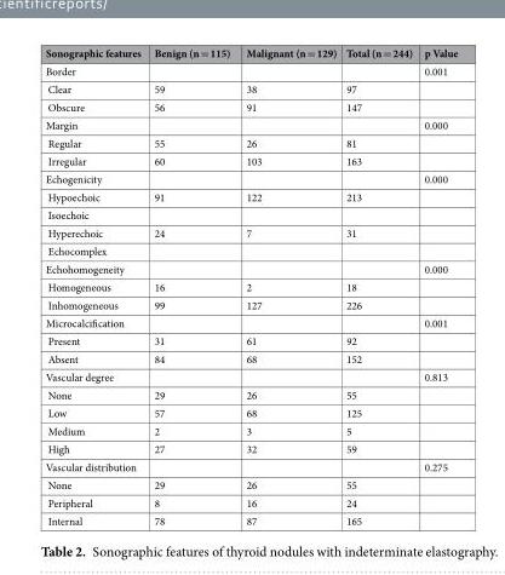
<table><thead><tr><td>Sonographic features</td><td>Benign (n = 115)</td><td>Malignant (n = 129)</td><td>Total (n = 244)</td><td>p Value</td></tr></thead><tbody><tr><td>Border</td><td></td><td></td><td></td><td>0.001</td></tr><tr><td>Clear</td><td>59</td><td>38</td><td>97</td><td></td></tr><tr><td>Obscure</td><td>56</td><td>91</td><td>147</td><td></td></tr><tr><td>Margin</td><td></td><td></td><td></td><td>0.000</td></tr><tr><td>Regular</td><td>55</td><td>26</td><td>81</td><td></td></tr><tr><td>Irregular</td><td>60</td><td>103</td><td>163</td><td></td></tr><tr><td>Echogenicity</td><td></td><td></td><td></td><td>0.000</td></tr><tr><td>Hypoechoic</td><td>91</td><td>122</td><td>213</td><td></td></tr><tr><td colspan="5">Isoechoic</td></tr><tr><td>Hyperechoic</td><td>24</td><td>7</td><td>31</td><td></td></tr><tr><td colspan="5">Echocomplex</td></tr><tr><td>Echohomogeneity</td><td></td><td></td><td></td><td>0.000</td></tr><tr><td>Homogeneous</td><td>16</td><td>2</td><td>18</td><td></td></tr><tr><td>Inhomogeneous</td><td>99</td><td>127</td><td>226</td><td></td></tr><tr><td>Microcalcification</td><td></td><td></td><td></td><td>0.001</td></tr><tr><td>Present</td><td>31</td><td>61</td><td>92</td><td></td></tr><tr><td>Absent</td><td>84</td><td>68</td><td>152</td><td></td></tr><tr><td>Vascular degree</td><td></td><td></td><td></td><td>0.813</td></tr><tr><td>None</td><td>29</td><td>26</td><td>55</td><td></td></tr><tr><td>Low</td><td>57</td><td>68</td><td>125</td><td></td></tr><tr><td>Medium</td><td>2</td><td>3</td><td>5</td><td></td></tr><tr><td>High</td><td>27</td><td>32</td><td>59</td><td></td></tr><tr><td>Vascular distribution</td><td></td><td></td><td></td><td>0.275</td></tr><tr><td>None</td><td>29</td><td>26</td><td>55</td><td></td></tr><tr><td>Peripheral</td><td>8</td><td>16</td><td>24</td><td></td></tr><tr><td>Internal</td><td>78</td><td>87</td><td>165</td><td></td></tr></tbody></table>